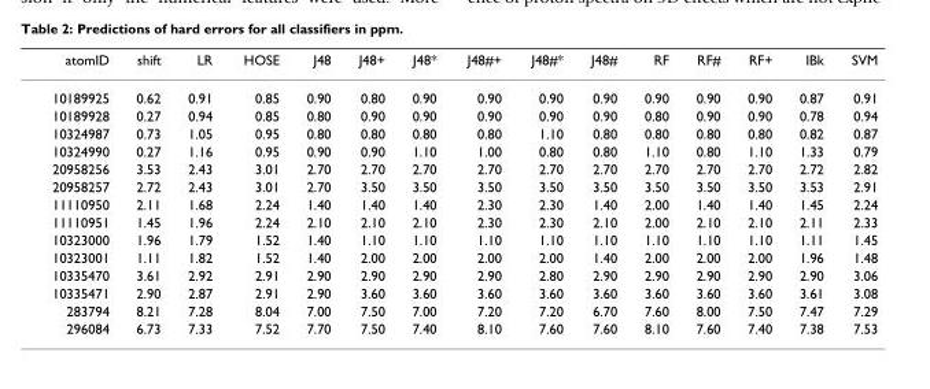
<table><thead><tr><td>atomID</td><td>shift</td><td>LR</td><td>HOSE</td><td>J48</td><td>J48+</td><td>J48*</td><td>J48#+</td><td>J48#*</td><td>J48#</td><td>RF</td><td>RF#</td><td>RF+</td><td>IBk</td><td>SVM</td></tr></thead><tbody><tr><td>10189925</td><td>0.62</td><td>0.91</td><td>0.85</td><td>0.90</td><td>0.80</td><td>0.90</td><td>0.90</td><td>0.90</td><td>0.90</td><td>0.90</td><td>0.90</td><td>0.90</td><td>0.87</td><td>0.91</td></tr><tr><td>10189928</td><td>0.27</td><td>0.94</td><td>0.85</td><td>0.80</td><td>0.90</td><td>0.90</td><td>0.90</td><td>0.90</td><td>0.90</td><td>0.80</td><td>0.90</td><td>0.90</td><td>0.78</td><td>0.94</td></tr><tr><td>10324987</td><td>0.73</td><td>1.05</td><td>0.95</td><td>0.80</td><td>0.80</td><td>0.80</td><td>0.80</td><td>1.10</td><td>0.80</td><td>0.80</td><td>0.80</td><td>0.80</td><td>0.82</td><td>0.87</td></tr><tr><td>10324990</td><td>0.27</td><td>1.16</td><td>0.95</td><td>0.90</td><td>0.90</td><td>1.10</td><td>1.00</td><td>0.80</td><td>0.80</td><td>1.10</td><td>0.80</td><td>1.10</td><td>1.33</td><td>0.79</td></tr><tr><td>20958256</td><td>3.53</td><td>2.43</td><td>3.01</td><td>2.70</td><td>2.70</td><td>2.70</td><td>2.70</td><td>2.70</td><td>2.70</td><td>2.70</td><td>2.70</td><td>2.70</td><td>2.72</td><td>2.82</td></tr><tr><td>20958257</td><td>2.72</td><td>2.43</td><td>3.01</td><td>2.70</td><td>3.50</td><td>3.50</td><td>3.50</td><td>3.50</td><td>3.50</td><td>3.50</td><td>3.50</td><td>3.50</td><td>3.53</td><td>2.91</td></tr><tr><td>11110950</td><td>2.11</td><td>1.68</td><td>2.24</td><td>1.40</td><td>1.40</td><td>1.40</td><td>2.30</td><td>2.30</td><td>1.40</td><td>2.00</td><td>1.40</td><td>1.40</td><td>1.45</td><td>2.24</td></tr><tr><td>11110951</td><td>1.45</td><td>1.96</td><td>2.24</td><td>2.10</td><td>2.10</td><td>2.10</td><td>2.30</td><td>2.30</td><td>2.10</td><td>2.00</td><td>2.10</td><td>2.10</td><td>2.11</td><td>2.33</td></tr><tr><td>10323000</td><td>1.96</td><td>1.79</td><td>1.52</td><td>1.40</td><td>1.10</td><td>1.10</td><td>1.10</td><td>1.10</td><td>1.10</td><td>1.10</td><td>1.10</td><td>1.10</td><td>1.11</td><td>1.45</td></tr><tr><td>10323001</td><td>1.11</td><td>1.82</td><td>1.52</td><td>1.40</td><td>2.00</td><td>2.00</td><td>2.00</td><td>2.00</td><td>1.40</td><td>2.00</td><td>2.00</td><td>2.00</td><td>1.96</td><td>1.48</td></tr><tr><td>10335470</td><td>3.61</td><td>2.92</td><td>2.91</td><td>2.90</td><td>2.90</td><td>2.90</td><td>2.90</td><td>2.80</td><td>2.90</td><td>2.90</td><td>2.90</td><td>2.90</td><td>2.90</td><td>3.06</td></tr><tr><td>10335471</td><td>2.90</td><td>2.87</td><td>2.91</td><td>2.90</td><td>3.60</td><td>3.60</td><td>3.60</td><td>3.60</td><td>3.60</td><td>3.60</td><td>3.60</td><td>3.60</td><td>3.61</td><td>3.08</td></tr><tr><td>283794</td><td>8.21</td><td>7.28</td><td>8.04</td><td>7.00</td><td>7.50</td><td>7.00</td><td>7.20</td><td>7.20</td><td>6.70</td><td>7.60</td><td>8.00</td><td>7.50</td><td>7.47</td><td>7.29</td></tr><tr><td>296084</td><td>6.73</td><td>7.33</td><td>7.52</td><td>7.70</td><td>7.50</td><td>7.40</td><td>8.10</td><td>7.60</td><td>7.60</td><td>8.10</td><td>7.60</td><td>7.40</td><td>7.38</td><td>7.53</td></tr></tbody></table>